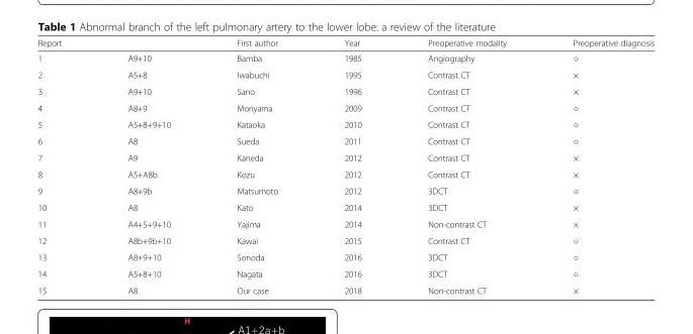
<table><thead><tr><td>Report</td><td></td><td>First author</td><td>Year</td><td>Preoperative modality</td><td>Preoperative diagnosis</td></tr></thead><tbody><tr><td>1</td><td>A9+10</td><td>Bamba</td><td>1985</td><td>Angiography</td><td>○</td></tr><tr><td>2</td><td>A5+8</td><td>Iwabuchi</td><td>1995</td><td>Contrast CT</td><td>×</td></tr><tr><td>3</td><td>A9+10</td><td>Sano</td><td>1996</td><td>Contrast CT</td><td>×</td></tr><tr><td>4</td><td>A8+9</td><td>Moriyama</td><td>2009</td><td>Contrast CT</td><td>○</td></tr><tr><td>5</td><td>A5+8+9+10</td><td>Kataoka</td><td>2010</td><td>Contrast CT</td><td>○</td></tr><tr><td>6</td><td>A8</td><td>Sueda</td><td>2011</td><td>Contrast CT</td><td>○</td></tr><tr><td>7</td><td>A9</td><td>Kaneda</td><td>2012</td><td>Contrast CT</td><td>×</td></tr><tr><td>8</td><td>A5+A8b</td><td>Kozu</td><td>2012</td><td>Contrast CT</td><td>×</td></tr><tr><td>9</td><td>A8+9b</td><td>Matsumoto</td><td>2012</td><td>3DCT</td><td>○</td></tr><tr><td>10</td><td>A8</td><td>Kato</td><td>2014</td><td>3DCT</td><td>×</td></tr><tr><td>11</td><td>A4+5+9+10</td><td>Yajima</td><td>2014</td><td>Non-contrast CT</td><td>×</td></tr><tr><td>12</td><td>A8b+9b+10</td><td>Kawai</td><td>2015</td><td>Contrast CT</td><td>○</td></tr><tr><td>13</td><td>A8+9+10</td><td>Sonoda</td><td>2016</td><td>3DCT</td><td>○</td></tr><tr><td>14</td><td>A5+8+10</td><td>Nagata</td><td>2016</td><td>3DCT</td><td>○</td></tr><tr><td>15</td><td>A8</td><td>Our case</td><td>2018</td><td>Non-contrast CT</td><td>×</td></tr></tbody></table>